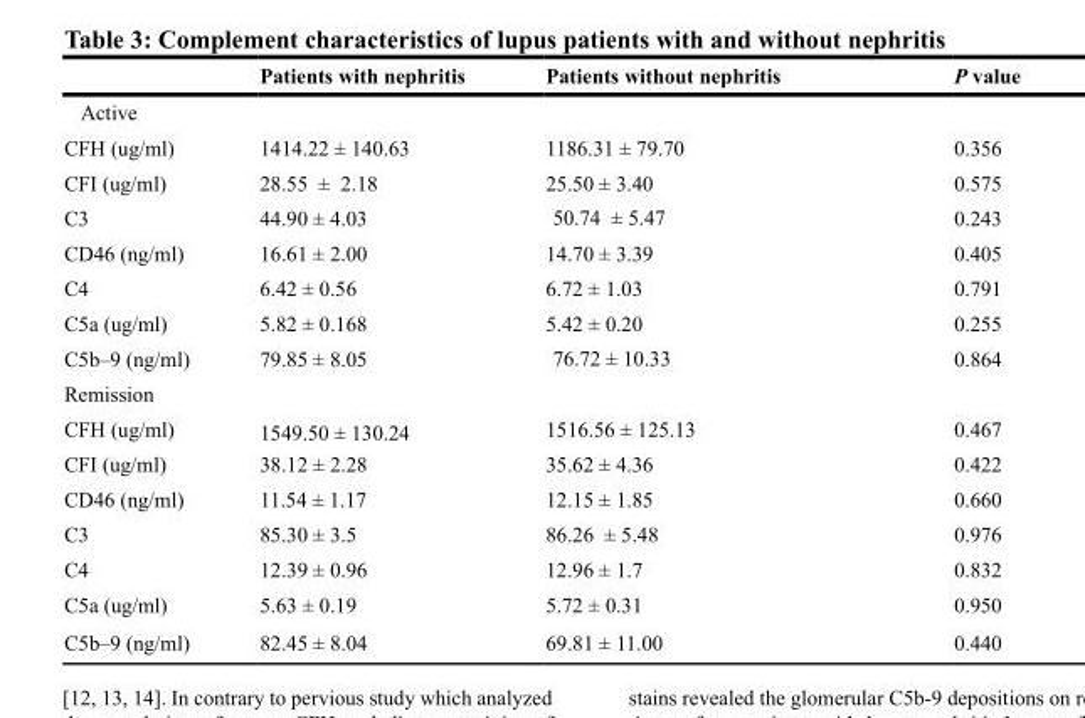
<table><thead><tr><td></td><td>Patients with nephritis</td><td>Patients without nephritis</td><td>P value</td></tr></thead><tbody><tr><td colspan="4">Active</td></tr><tr><td>CFH (ug/ml)</td><td>1414.22 ± 140.63</td><td>1186.31 ± 79.70</td><td>0.356</td></tr><tr><td>CFI (ug/ml)</td><td>28.55 ± 2.18</td><td>25.50 ± 3.40</td><td>0.575</td></tr><tr><td>C3</td><td>44.90 ± 4.03</td><td>50.74 ± 5.47</td><td>0.243</td></tr><tr><td>CD46 (ng/ml)</td><td>16.61 ± 2.00</td><td>14.70 ± 3.39</td><td>0.405</td></tr><tr><td>C4</td><td>6.42 ± 0.56</td><td>6.72 ± 1.03</td><td>0.791</td></tr><tr><td>C5a (ug/ml)</td><td>5.82 ± 0.168</td><td>5.42 ± 0.20</td><td>0.255</td></tr><tr><td>C5b–9 (ng/ml)</td><td>79.85 ± 8.05</td><td>76.72 ± 10.33</td><td>0.864</td></tr><tr><td colspan="4">Remission</td></tr><tr><td>CFH (ug/ml)</td><td>1549.50 ± 130.24</td><td>1516.56 ± 125.13</td><td>0.467</td></tr><tr><td>CFI (ug/ml)</td><td>38.12 ± 2.28</td><td>35.62 ± 4.36</td><td>0.422</td></tr><tr><td>CD46 (ng/ml)</td><td>11.54 ± 1.17</td><td>12.15 ± 1.85</td><td>0.660</td></tr><tr><td>C3</td><td>85.30 ± 3.5</td><td>86.26 ± 5.48</td><td>0.976</td></tr><tr><td>C4</td><td>12.39 ± 0.96</td><td>12.96 ± 1.7</td><td>0.832</td></tr><tr><td>C5a (ug/ml)</td><td>5.63 ± 0.19</td><td>5.72 ± 0.31</td><td>0.950</td></tr><tr><td>C5b–9 (ng/ml)</td><td>82.45 ± 8.04</td><td>69.81 ± 11.00</td><td>0.440</td></tr></tbody></table>